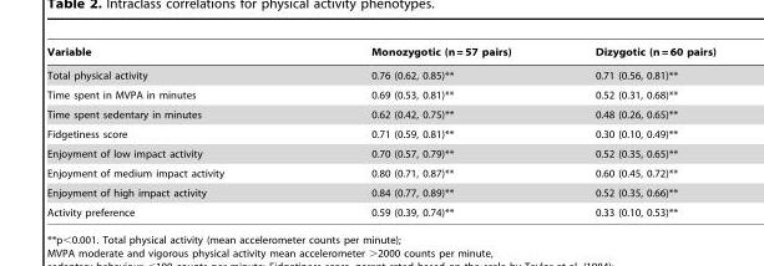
<table><thead><tr><td>Variable</td><td>Monozygotic (n = 57 pairs)</td><td>Dizygotic (n = 60 pairs)</td></tr></thead><tbody><tr><td>Total physical activity</td><td>0.76 (0.62, 0.85)**</td><td>0.71 (0.56, 0.81)**</td></tr><tr><td>Time spent in MVPA in minutes</td><td>0.69 (0.53, 0.81)**</td><td>0.52 (0.31, 0.68)**</td></tr><tr><td>Time spent sedentary in minutes</td><td>0.62 (0.42, 0.75)**</td><td>0.48 (0.26, 0.65)**</td></tr><tr><td>Fidgetiness score</td><td>0.71 (0.59, 0.81)**</td><td>0.30 (0.10, 0.49)**</td></tr><tr><td>Enjoyment of low impact activity</td><td>0.70 (0.57, 0.79)**</td><td>0.52 (0.35, 0.65)**</td></tr><tr><td>Enjoyment of medium impact activity</td><td>0.80 (0.71, 0.87)**</td><td>0.60 (0.45, 0.72)**</td></tr><tr><td>Enjoyment of high impact activity</td><td>0.84 (0.77, 0.89)**</td><td>0.52 (0.35, 0.66)**</td></tr><tr><td>Activity preference</td><td>0.59 (0.39, 0.74)**</td><td>0.33 (0.10, 0.53)**</td></tr></tbody></table>